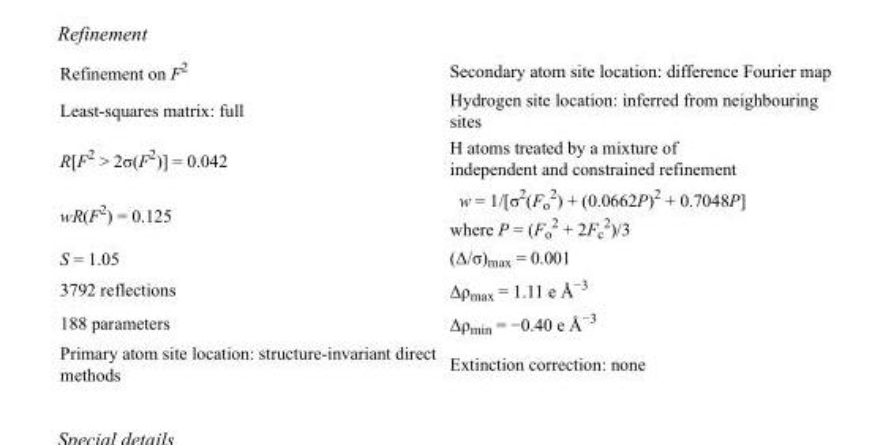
<table><tbody><tr><td>Refinement on F<sup>2</sup></td><td>Secondary atom site location: difference Fourier map</td></tr><tr><td>Least-squares matrix: full</td><td>Hydrogen site location: inferred from neighbouring sites</td></tr><tr><td>R[F<sup>2</sup> &gt; 2σ(F<sup>2</sup>)] = 0.042</td><td>H atoms treated by a mixture of independent and constrained refinement</td></tr><tr><td>wR(F<sup>2</sup>) = 0.125</td><td>w = 1/[σ<sup>2</sup>(F<sub>o</sub> <sup>2</sup>) + (0.0662P)<sup>2</sup> + 0.7048P] where P = (F<sub>o</sub> <sup>2</sup> + 2F<sub>c</sub> <sup>2</sup>)/3</td></tr><tr><td>S = 1.05</td><td>(Δ/σ)<sub>max</sub> = 0.001</td></tr><tr><td>3792 reflections</td><td>Δρ<sub>max</sub> = 1.11 e Å<sup>−3</sup></td></tr><tr><td>188 parameters</td><td>Δρ<sub>min</sub> = −0.40 e Å<sup>−3</sup></td></tr><tr><td>Primary atom site location: structure-invariant direct methods</td><td>Extinction correction: none</td></tr></tbody></table>